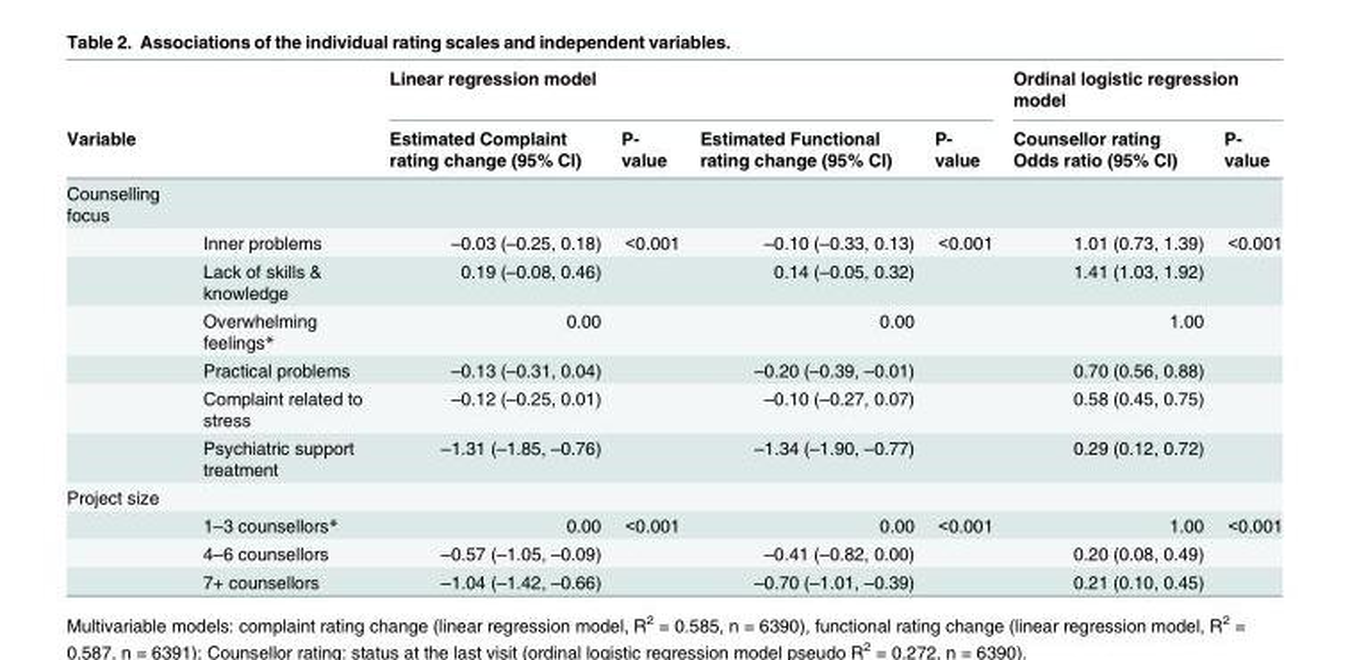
<table><thead><tr><td rowspan="2">Variable</td><td rowspan="2"></td><td colspan="4">Linear regression model</td><td colspan="2">Ordinal logistic regression model</td></tr><tr><td>Estimated Complaint rating change (95% CI)</td><td>P- value</td><td>Estimated Functional rating change (95% CI)</td><td>P- value</td><td>Counsellor rating Odds ratio (95% CI)</td><td>P- value</td></tr></thead><tbody><tr><td colspan="8">Counselling focus</td></tr><tr><td></td><td>Inner problems</td><td>–0.03 (–0.25, 0.18)</td><td>&lt;0.001</td><td>–0.10 (–0.33, 0.13)</td><td>&lt;0.001</td><td>1.01 (0.73, 1.39)</td><td>&lt;0.001</td></tr><tr><td></td><td>Lack of skills &amp; knowledge</td><td>0.19 (–0.08, 0.46)</td><td></td><td>0.14 (–0.05, 0.32)</td><td></td><td>1.41 (1.03, 1.92)</td><td></td></tr><tr><td></td><td>Overwhelming feelings*</td><td>0.00</td><td></td><td>0.00</td><td></td><td>1.00</td><td></td></tr><tr><td></td><td>Practical problems</td><td>–0.13 (–0.31, 0.04)</td><td></td><td>–0.20 (–0.39, –0.01)</td><td></td><td>0.70 (0.56, 0.88)</td><td></td></tr><tr><td></td><td>Complaint related to stress</td><td>–0.12 (–0.25, 0.01)</td><td></td><td>–0.10 (–0.27, 0.07)</td><td></td><td>0.58 (0.45, 0.75)</td><td></td></tr><tr><td></td><td>Psychiatric support treatment</td><td>–1.31 (–1.85, –0.76)</td><td></td><td>–1.34 (–1.90, –0.77)</td><td></td><td>0.29 (0.12, 0.72)</td><td></td></tr><tr><td colspan="8">Project size</td></tr><tr><td></td><td>1–3 counsellors*</td><td>0.00</td><td>&lt;0.001</td><td>0.00</td><td>&lt;0.001</td><td>1.00</td><td>&lt;0.001</td></tr><tr><td></td><td>4–6 counsellors</td><td>–0.57 (–1.05, –0.09)</td><td></td><td>–0.41 (–0.82, 0.00)</td><td></td><td>0.20 (0.08, 0.49)</td><td></td></tr><tr><td></td><td>7+ counsellors</td><td>–1.04 (–1.42, –0.66)</td><td></td><td>–0.70 (–1.01, –0.39)</td><td></td><td>0.21 (0.10, 0.45)</td><td></td></tr></tbody></table>